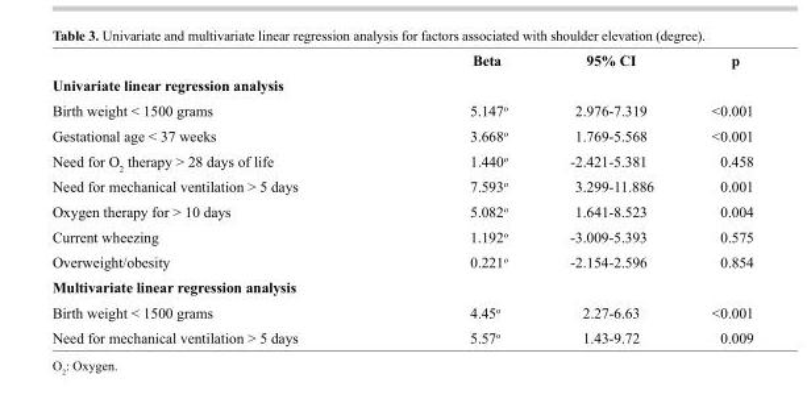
<table><thead><tr><td></td><td>Beta</td><td>95% CI</td><td>p</td></tr></thead><tbody><tr><td colspan="4">Univariate linear regression analysis</td></tr><tr><td>Birth weight &lt; 1500 grams</td><td>5.147<sup>o</sup></td><td>2.976-7.319</td><td>&lt;0.001</td></tr><tr><td>Gestational age &lt; 37 weeks</td><td>3.668<sup>o</sup></td><td>1.769-5.568</td><td>&lt;0.001</td></tr><tr><td>Need for O<sub>2</sub> therapy &gt; 28 days of life</td><td>1.440<sup>o</sup></td><td>-2.421-5.381</td><td>0.458</td></tr><tr><td>Need for mechanical ventilation &gt; 5 days</td><td>7.593<sup>o</sup></td><td>3.299-11.886</td><td>0.001</td></tr><tr><td>Oxygen therapy for &gt; 10 days</td><td>5.082<sup>o</sup></td><td>1.641-8.523</td><td>0.004</td></tr><tr><td>Current wheezing</td><td>1.192<sup>o</sup></td><td>-3.009-5.393</td><td>0.575</td></tr><tr><td>Overweight/obesity</td><td>0.221<sup>o</sup></td><td>-2.154-2.596</td><td>0.854</td></tr><tr><td colspan="4">Multivariate linear regression analysis</td></tr><tr><td>Birth weight &lt; 1500 grams</td><td>4.45<sup>o</sup></td><td>2.27-6.63</td><td>&lt;0.001</td></tr><tr><td>Need for mechanical ventilation &gt; 5 days</td><td>5.57<sup>o</sup></td><td>1.43-9.72</td><td>0.009</td></tr></tbody></table>